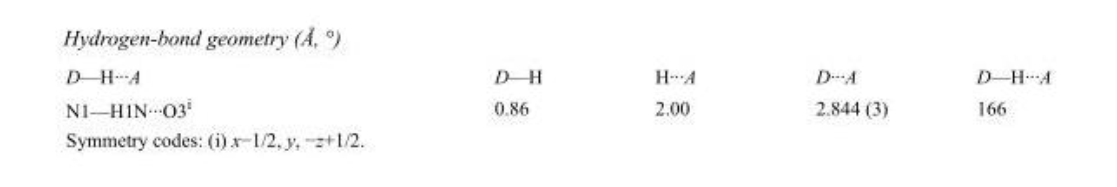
<table><tbody><tr><td>D—H···A</td><td>D—H</td><td>H···A</td><td>D···A</td><td>D—H···A</td></tr><tr><td>N1—H1N···O3<sup>i</sup></td><td>0.86</td><td>2.00</td><td>2.844 (3)</td><td>166</td></tr></tbody></table>